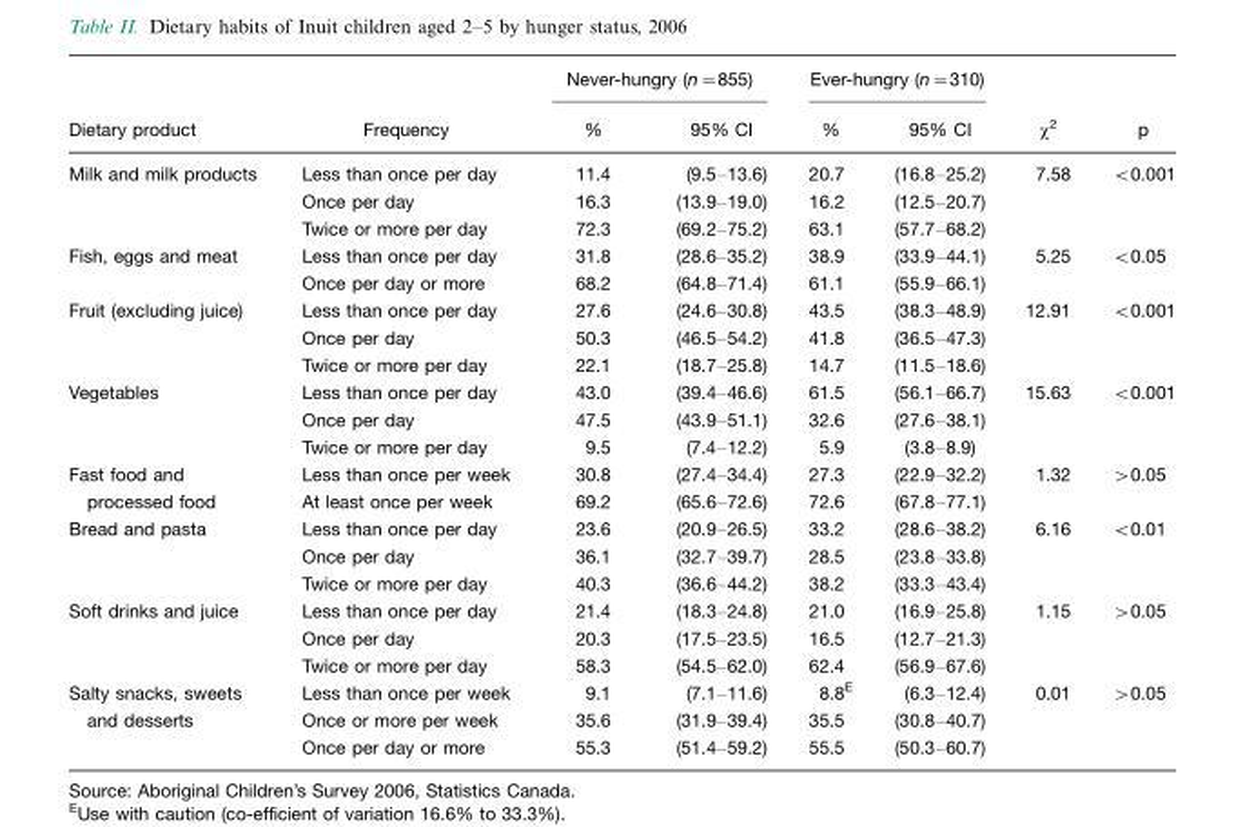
<table><thead><tr><td rowspan="2">Dietary product</td><td rowspan="2">Frequency</td><td colspan="2">Never-hungry (n=855)</td><td colspan="2">Ever-hungry (n=310)</td><td rowspan="2">χ<sup>2</sup></td><td rowspan="2">p</td></tr><tr><td>%</td><td>95% CI</td><td>%</td><td>95% CI</td></tr></thead><tbody><tr><td rowspan="3">Milk and milk products</td><td>Less than once per day</td><td>11.4</td><td>(9.5–13.6)</td><td>20.7</td><td>(16.8–25.2)</td><td>7.58</td><td>&lt;0.001</td></tr><tr><td>Once per day</td><td>16.3</td><td>(13.9–19.0)</td><td>16.2</td><td>(12.5–20.7)</td><td></td><td></td></tr><tr><td>Twice or more per day</td><td>72.3</td><td>(69.2–75.2)</td><td>63.1</td><td>(57.7–68.2)</td><td></td><td></td></tr><tr><td rowspan="2">Fish, eggs and meat</td><td>Less than once per day</td><td>31.8</td><td>(28.6–35.2)</td><td>38.9</td><td>(33.9–44.1)</td><td>5.25</td><td>&lt;0.05</td></tr><tr><td>Once per day or more</td><td>68.2</td><td>(64.8–71.4)</td><td>61.1</td><td>(55.9–66.1)</td><td></td><td></td></tr><tr><td rowspan="3">Fruit (excluding juice)</td><td>Less than once per day</td><td>27.6</td><td>(24.6–30.8)</td><td>43.5</td><td>(38.3–48.9)</td><td>12.91</td><td>&lt;0.001</td></tr><tr><td>Once per day</td><td>50.3</td><td>(46.5–54.2)</td><td>41.8</td><td>(36.5–47.3)</td><td></td><td></td></tr><tr><td>Twice or more per day</td><td>22.1</td><td>(18.7–25.8)</td><td>14.7</td><td>(11.5–18.6)</td><td></td><td></td></tr><tr><td rowspan="3">Vegetables</td><td>Less than once per day</td><td>43.0</td><td>(39.4–46.6)</td><td>61.5</td><td>(56.1–66.7)</td><td>15.63</td><td>&lt;0.001</td></tr><tr><td>Once per day</td><td>47.5</td><td>(43.9–51.1)</td><td>32.6</td><td>(27.6–38.1)</td><td></td><td></td></tr><tr><td>Twice or more per day</td><td>9.5</td><td>(7.4–12.2)</td><td>5.9</td><td>(3.8–8.9)</td><td></td><td></td></tr><tr><td rowspan="2">Fast food and processed food</td><td>Less than once per week</td><td>30.8</td><td>(27.4–34.4)</td><td>27.3</td><td>(22.9–32.2)</td><td>1.32</td><td>&gt;0.05</td></tr><tr><td>At least once per week</td><td>69.2</td><td>(65.6–72.6)</td><td>72.6</td><td>(67.8–77.1)</td><td></td><td></td></tr><tr><td rowspan="3">Bread and pasta</td><td>Less than once per day</td><td>23.6</td><td>(20.9–26.5)</td><td>33.2</td><td>(28.6–38.2)</td><td>6.16</td><td>&lt;0.01</td></tr><tr><td>Once per day</td><td>36.1</td><td>(32.7–39.7)</td><td>28.5</td><td>(23.8–33.8)</td><td></td><td></td></tr><tr><td>Twice or more per day</td><td>40.3</td><td>(36.6–44.2)</td><td>38.2</td><td>(33.3–43.4)</td><td></td><td></td></tr><tr><td rowspan="3">Soft drinks and juice</td><td>Less than once per day</td><td>21.4</td><td>(18.3–24.8)</td><td>21.0</td><td>(16.9–25.8)</td><td>1.15</td><td>&gt;0.05</td></tr><tr><td>Once per day</td><td>20.3</td><td>(17.5–23.5)</td><td>16.5</td><td>(12.7–21.3)</td><td></td><td></td></tr><tr><td>Twice or more per day</td><td>58.3</td><td>(54.5–62.0)</td><td>62.4</td><td>(56.9–67.6)</td><td></td><td></td></tr><tr><td rowspan="3">Salty snacks, sweets and desserts</td><td>Less than once per week</td><td>9.1</td><td>(7.1–11.6)</td><td>8.8<sup>E</sup></td><td>(6.3–12.4)</td><td>0.01</td><td>&gt;0.05</td></tr><tr><td>Once or more per week</td><td>35.6</td><td>(31.9–39.4)</td><td>35.5</td><td>(30.8–40.7)</td><td></td><td></td></tr><tr><td>Once per day or more</td><td>55.3</td><td>(51.4–59.2)</td><td>55.5</td><td>(50.3–60.7)</td><td></td><td></td></tr></tbody></table>